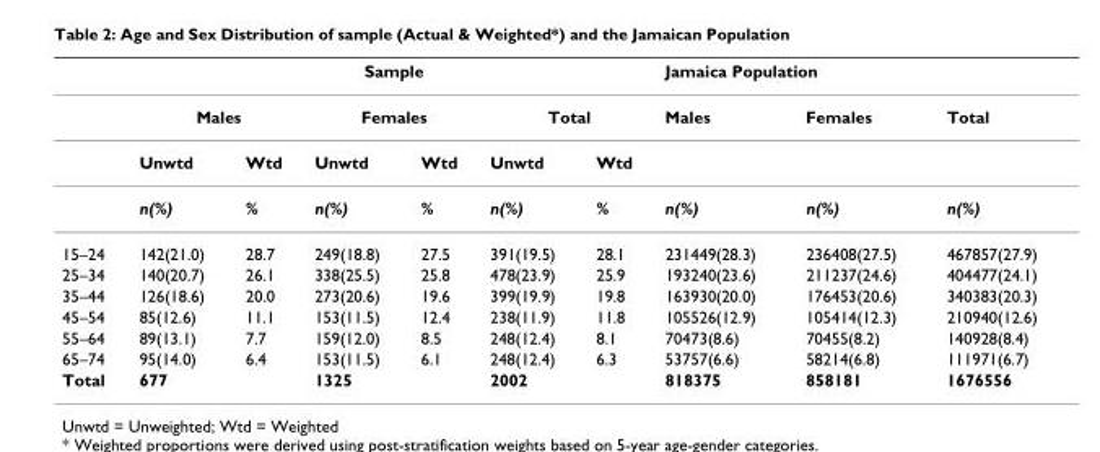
<table><thead><tr><td rowspan="3"></td><td colspan="6">Sample</td><td colspan="3">Jamaica Population</td></tr><tr><td colspan="2">Males</td><td colspan="2">Females</td><td colspan="2">Total</td><td rowspan="2">Males</td><td rowspan="2">Females</td><td rowspan="2">Total</td></tr><tr><td>Unwtd</td><td>Wtd</td><td>Unwtd</td><td>Wtd</td><td>Unwtd</td><td>Wtd</td></tr></thead><tbody><tr><td></td><td>n(%)</td><td>%</td><td>n(%)</td><td>%</td><td>n(%)</td><td>%</td><td>n(%)</td><td>n(%)</td><td>n(%)</td></tr><tr><td>15–24</td><td>142(21.0)</td><td>28.7</td><td>249(18.8)</td><td>27.5</td><td>391(19.5)</td><td>28.1</td><td>231449(28.3)</td><td>236408(27.5)</td><td>467857(27.9)</td></tr><tr><td>25–34</td><td>140(20.7)</td><td>26.1</td><td>338(25.5)</td><td>25.8</td><td>478(23.9)</td><td>25.9</td><td>193240(23.6)</td><td>211237(24.6)</td><td>404477(24.1)</td></tr><tr><td>35–44</td><td>126(18.6)</td><td>20.0</td><td>273(20.6)</td><td>19.6</td><td>399(19.9)</td><td>19.8</td><td>163930(20.0)</td><td>176453(20.6)</td><td>340383(20.3)</td></tr><tr><td>45–54</td><td>85(12.6)</td><td>11.1</td><td>153(11.5)</td><td>12.4</td><td>238(11.9)</td><td>11.8</td><td>105526(12.9)</td><td>105414(12.3)</td><td>210940(12.6)</td></tr><tr><td>55–64</td><td>89(13.1)</td><td>7.7</td><td>159(12.0)</td><td>8.5</td><td>248(12.4)</td><td>8.1</td><td>70473(8.6)</td><td>70455(8.2)</td><td>140928(8.4)</td></tr><tr><td>65–74</td><td>95(14.0)</td><td>6.4</td><td>153(11.5)</td><td>6.1</td><td>248(12.4)</td><td>6.3</td><td>53757(6.6)</td><td>58214(6.8)</td><td>111971(6.7)</td></tr><tr><td>Total</td><td>677</td><td></td><td>1325</td><td></td><td>2002</td><td></td><td>818375</td><td>858181</td><td>1676556</td></tr></tbody></table>